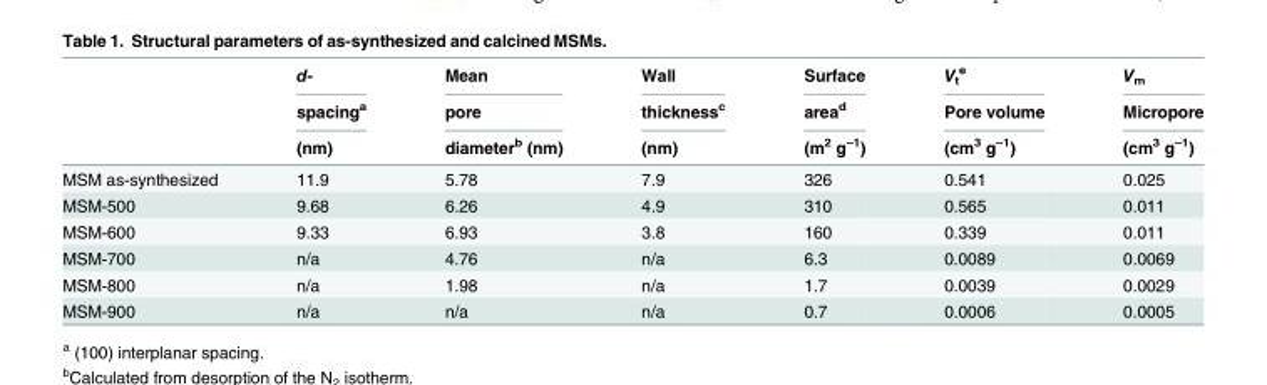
<table><thead><tr><td rowspan="3"></td><td rowspan="3">d- spacing<sup>a</sup> (nm)</td><td rowspan="3">Mean pore diameter<sup>b</sup> (nm)</td><td rowspan="3">Wall thickness<sup>c</sup> (nm)</td><td rowspan="3">Surface area<sup>d</sup> (m<sup>2</sup> g<sup>–1</sup>)</td><td rowspan="3">V<sub>t</sub> <sup>e</sup> Pore volume (cm<sup>3</sup> g<sup>–1</sup>)</td><td rowspan="3">V<sub>m</sub> Micropore (cm<sup>3</sup> g<sup>–1</sup>)</td></tr><tr></tr><tr></tr></thead><tbody><tr><td>MSM as-synthesized</td><td>11.9</td><td>5.78</td><td>7.9</td><td>326</td><td>0.541</td><td>0.025</td></tr><tr><td>MSM-500</td><td>9.68</td><td>6.26</td><td>4.9</td><td>310</td><td>0.565</td><td>0.011</td></tr><tr><td>MSM-600</td><td>9.33</td><td>6.93</td><td>3.8</td><td>160</td><td>0.339</td><td>0.011</td></tr><tr><td>MSM-700</td><td>n/a</td><td>4.76</td><td>n/a</td><td>6.3</td><td>0.0089</td><td>0.0069</td></tr><tr><td>MSM-800</td><td>n/a</td><td>1.98</td><td>n/a</td><td>1.7</td><td>0.0039</td><td>0.0029</td></tr><tr><td>MSM-900</td><td>n/a</td><td>n/a</td><td>n/a</td><td>0.7</td><td>0.0006</td><td>0.0005</td></tr></tbody></table>